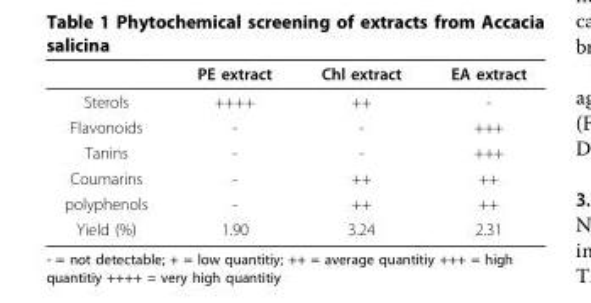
<table><thead><tr><td></td><td>PE extract</td><td>Chl extract</td><td>EA extract</td></tr></thead><tbody><tr><td>Sterols</td><td>++++</td><td>++</td><td>-</td></tr><tr><td>Flavonoids</td><td>-</td><td>-</td><td>+++</td></tr><tr><td>Tanins</td><td>-</td><td>-</td><td>+++</td></tr><tr><td>Coumarins</td><td>-</td><td>++</td><td>++</td></tr><tr><td>polyphenols</td><td>-</td><td>++</td><td>++</td></tr><tr><td>Yield (%)</td><td>1.90</td><td>3.24</td><td>2.31</td></tr></tbody></table>